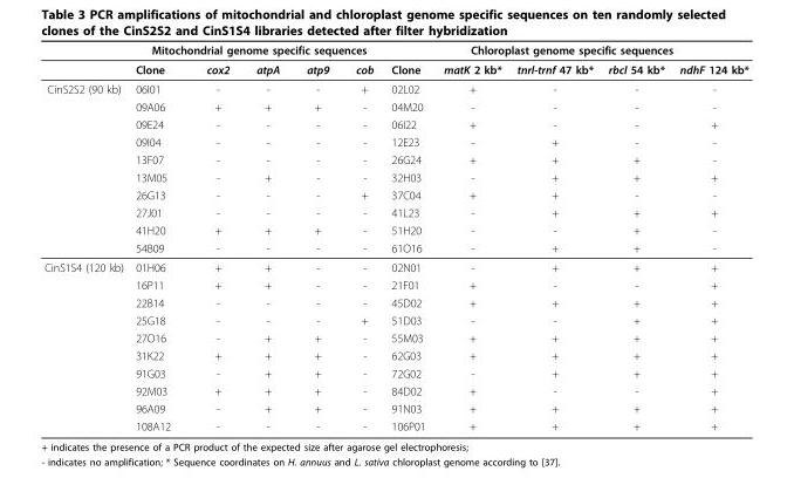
<table><thead><tr><td rowspan="2"></td><td colspan="5">Mitochondrial genome specific sequences</td><td colspan="5">Chloroplast genome specific sequences</td></tr><tr><td>Clone</td><td>cox2</td><td>atpA</td><td>atp9</td><td>cob</td><td>Clone</td><td>matK 2 kb*</td><td>tnrl-trnf 47 kb*</td><td>rbcl 54 kb*</td><td>ndhF 124 kb*</td></tr></thead><tbody><tr><td rowspan="10">CinS2S2 (90 kb)</td><td>06I01</td><td>-</td><td>-</td><td>-</td><td>+</td><td>02L02</td><td>+</td><td>-</td><td>-</td><td>-</td></tr><tr><td>09A06</td><td>+</td><td>+</td><td>+</td><td>-</td><td>04M20</td><td>-</td><td>-</td><td>-</td><td>-</td></tr><tr><td>09E24</td><td>-</td><td>-</td><td>-</td><td>-</td><td>06I22</td><td>+</td><td>-</td><td>-</td><td>+</td></tr><tr><td>09I04</td><td>-</td><td>-</td><td>-</td><td>-</td><td>12E23</td><td>-</td><td>+</td><td>-</td><td>-</td></tr><tr><td>13F07</td><td>-</td><td>-</td><td>-</td><td>-</td><td>26G24</td><td>+</td><td>+</td><td>+</td><td>-</td></tr><tr><td>13M05</td><td>-</td><td>+</td><td>-</td><td>-</td><td>32H03</td><td>-</td><td>+</td><td>+</td><td>+</td></tr><tr><td>26G13</td><td>-</td><td>-</td><td>-</td><td>+</td><td>37C04</td><td>+</td><td>+</td><td>-</td><td>-</td></tr><tr><td>27J01</td><td>-</td><td>-</td><td>-</td><td>-</td><td>41L23</td><td>-</td><td>+</td><td>+</td><td>+</td></tr><tr><td>41H20</td><td>+</td><td>+</td><td>+</td><td>-</td><td>51H20</td><td>-</td><td>-</td><td>+</td><td>-</td></tr><tr><td>54B09</td><td>-</td><td>-</td><td>-</td><td>-</td><td>61O16</td><td>-</td><td>+</td><td>+</td><td>-</td></tr><tr><td rowspan="10">CinS1S4 (120 kb)</td><td>01H06</td><td>+</td><td>+</td><td>-</td><td>-</td><td>02N01</td><td>-</td><td>+</td><td>+</td><td>+</td></tr><tr><td>16P11</td><td>+</td><td>+</td><td>-</td><td>-</td><td>21F01</td><td>+</td><td>-</td><td>-</td><td>+</td></tr><tr><td>22B14</td><td>-</td><td>-</td><td>-</td><td>-</td><td>45D02</td><td>+</td><td>+</td><td>+</td><td>+</td></tr><tr><td>25G18</td><td>-</td><td>-</td><td>-</td><td>+</td><td>51D03</td><td>-</td><td>-</td><td>+</td><td>+</td></tr><tr><td>27O16</td><td>-</td><td>+</td><td>+</td><td>-</td><td>55M03</td><td>+</td><td>+</td><td>+</td><td>+</td></tr><tr><td>31K22</td><td>+</td><td>+</td><td>+</td><td>-</td><td>62G03</td><td>+</td><td>+</td><td>+</td><td>+</td></tr><tr><td>91G03</td><td>-</td><td>+</td><td>+</td><td>-</td><td>72G02</td><td>-</td><td>+</td><td>+</td><td>+</td></tr><tr><td>92M03</td><td>+</td><td>+</td><td>+</td><td>-</td><td>84D02</td><td>+</td><td>-</td><td>-</td><td>+</td></tr><tr><td>96A09</td><td>-</td><td>+</td><td>+</td><td>-</td><td>91N03</td><td>+</td><td>+</td><td>+</td><td>+</td></tr><tr><td>108A12</td><td>-</td><td>-</td><td>-</td><td>-</td><td>106P01</td><td>+</td><td>+</td><td>+</td><td>+</td></tr></tbody></table>